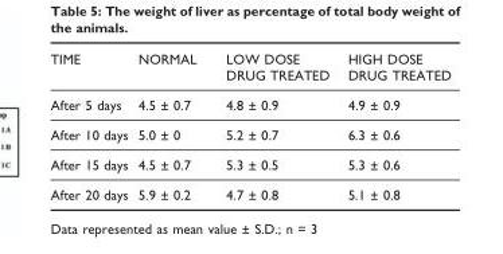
<table><thead><tr><td>TIME</td><td>NORMAL</td><td>LOW DOSE DRUG TREATED</td><td>HIGH DOSE DRUG TREATED</td></tr></thead><tbody><tr><td>After 5 days</td><td>4.5 ± 0.7</td><td>4.8 ± 0.9</td><td>4.9 ± 0.9</td></tr><tr><td>After 10 days</td><td>5.0 ± 0</td><td>5.2 ± 0.7</td><td>6.3 ± 0.6</td></tr><tr><td>After 15 days</td><td>4.5 ± 0.7</td><td>5.3 ± 0.5</td><td>5.3 ± 0.6</td></tr><tr><td>After 20 days</td><td>5.9 ± 0.2</td><td>4.7 ± 0.8</td><td>5.1 ± 0.8</td></tr></tbody></table>